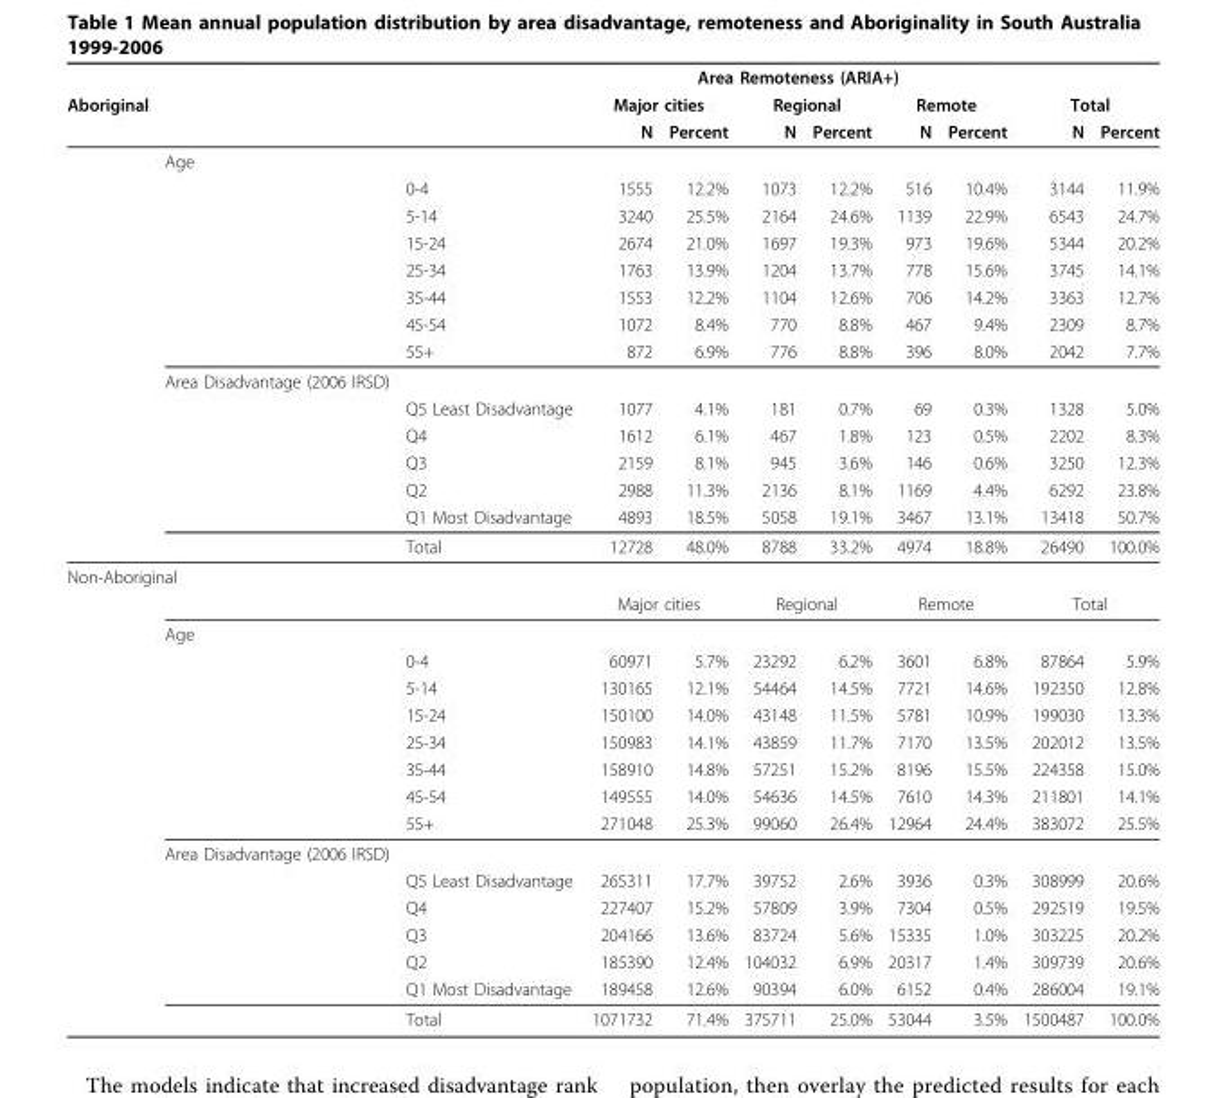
<table><thead><tr><td rowspan="3">Aboriginal</td><td rowspan="3"></td><td rowspan="3"></td><td colspan="6">Area Remoteness (ARIA+)</td><td></td><td></td></tr><tr><td colspan="2">Major cities</td><td colspan="2">Regional</td><td colspan="2">Remote</td><td colspan="2">Total</td></tr><tr><td>N</td><td>Percent</td><td>N</td><td>Percent</td><td>N</td><td>Percent</td><td>N</td><td>Percent</td></tr></thead><tbody><tr><td></td><td>Age</td><td></td><td></td><td></td><td></td><td></td><td></td><td></td><td></td><td></td></tr><tr><td></td><td></td><td>0-4</td><td>1555</td><td>12.2%</td><td>1073</td><td>12.2%</td><td>516</td><td>10.4%</td><td>3144</td><td>11.9%</td></tr><tr><td></td><td></td><td>5-14</td><td>3240</td><td>25.5%</td><td>2164</td><td>24.6%</td><td>1139</td><td>22.9%</td><td>6543</td><td>24.7%</td></tr><tr><td></td><td></td><td>15-24</td><td>2674</td><td>21.0%</td><td>1697</td><td>19.3%</td><td>973</td><td>19.6%</td><td>5344</td><td>20.2%</td></tr><tr><td></td><td></td><td>25-34</td><td>1763</td><td>13.9%</td><td>1204</td><td>13.7%</td><td>778</td><td>15.6%</td><td>3745</td><td>14.1%</td></tr><tr><td></td><td></td><td>35-44</td><td>1553</td><td>12.2%</td><td>1104</td><td>12.6%</td><td>706</td><td>14.2%</td><td>3363</td><td>12.7%</td></tr><tr><td></td><td></td><td>45-54</td><td>1072</td><td>8.4%</td><td>770</td><td>8.8%</td><td>467</td><td>9.4%</td><td>2309</td><td>8.7%</td></tr><tr><td></td><td></td><td>55+</td><td>872</td><td>6.9%</td><td>776</td><td>8.8%</td><td>396</td><td>8.0%</td><td>2042</td><td>7.7%</td></tr><tr><td></td><td>Area Disadvantage (2006 IRSD)</td><td></td><td></td><td></td><td></td><td></td><td></td><td></td><td></td><td></td></tr><tr><td></td><td></td><td>Q5 Least Disadvantage</td><td>1077</td><td>4.1%</td><td>181</td><td>0.7%</td><td>69</td><td>0.3%</td><td>1328</td><td>5.0%</td></tr><tr><td></td><td></td><td>Q4</td><td>1612</td><td>6.1%</td><td>467</td><td>1.8%</td><td>123</td><td>0.5%</td><td>2202</td><td>8.3%</td></tr><tr><td></td><td></td><td>Q3</td><td>2159</td><td>8.1%</td><td>945</td><td>3.6%</td><td>146</td><td>0.6%</td><td>3250</td><td>12.3%</td></tr><tr><td></td><td></td><td>Q2</td><td>2988</td><td>11.3%</td><td>2136</td><td>8.1%</td><td>1169</td><td>4.4%</td><td>6292</td><td>23.8%</td></tr><tr><td></td><td></td><td>Q1 Most Disadvantage</td><td>4893</td><td>18.5%</td><td>5058</td><td>19.1%</td><td>3467</td><td>13.1%</td><td>13418</td><td>50.7%</td></tr><tr><td></td><td></td><td>Total</td><td>12728</td><td>48.0%</td><td>8788</td><td>33.2%</td><td>4974</td><td>18.8%</td><td>26490</td><td>100.0%</td></tr><tr><td colspan="11">Non-Aboriginal</td></tr><tr><td></td><td></td><td></td><td colspan="2">Major cities</td><td colspan="2">Regional</td><td colspan="2">Remote</td><td colspan="2">Total</td></tr><tr><td></td><td>Age</td><td></td><td></td><td></td><td></td><td></td><td></td><td></td><td></td><td></td></tr><tr><td></td><td></td><td>0-4</td><td>60971</td><td>5.7%</td><td>23292</td><td>6.2%</td><td>3601</td><td>6.8%</td><td>87864</td><td>5.9%</td></tr><tr><td></td><td></td><td>5-14</td><td>130165</td><td>12.1%</td><td>54464</td><td>14.5%</td><td>7721</td><td>14.6%</td><td>192350</td><td>12.8%</td></tr><tr><td></td><td></td><td>15-24</td><td>150100</td><td>14.0%</td><td>43148</td><td>11.5%</td><td>5781</td><td>10.9%</td><td>199030</td><td>13.3%</td></tr><tr><td></td><td></td><td>25-34</td><td>150983</td><td>14.1%</td><td>43859</td><td>11.7%</td><td>7170</td><td>13.5%</td><td>202012</td><td>13.5%</td></tr><tr><td></td><td></td><td>35-44</td><td>158910</td><td>14.8%</td><td>57251</td><td>15.2%</td><td>8196</td><td>15.5%</td><td>224358</td><td>15.0%</td></tr><tr><td></td><td></td><td>45-54</td><td>149555</td><td>14.0%</td><td>54636</td><td>14.5%</td><td>7610</td><td>14.3%</td><td>211801</td><td>14.1%</td></tr><tr><td></td><td></td><td>55+</td><td>271048</td><td>25.3%</td><td>99060</td><td>26.4%</td><td>12964</td><td>24.4%</td><td>383072</td><td>25.5%</td></tr><tr><td></td><td>Area Disadvantage (2006 IRSD)</td><td></td><td></td><td></td><td></td><td></td><td></td><td></td><td></td><td></td></tr><tr><td></td><td></td><td>Q5 Least Disadvantage</td><td>265311</td><td>17.7%</td><td>39752</td><td>2.6%</td><td>3936</td><td>0.3%</td><td>308999</td><td>20.6%</td></tr><tr><td></td><td></td><td>Q4</td><td>227407</td><td>15.2%</td><td>57809</td><td>3.9%</td><td>7304</td><td>0.5%</td><td>292519</td><td>19.5%</td></tr><tr><td></td><td></td><td>Q3</td><td>204166</td><td>13.6%</td><td>83724</td><td>5.6%</td><td>15335</td><td>1.0%</td><td>303225</td><td>20.2%</td></tr><tr><td></td><td></td><td>Q2</td><td>185390</td><td>12.4%</td><td>104032</td><td>6.9%</td><td>20317</td><td>1.4%</td><td>309739</td><td>20.6%</td></tr><tr><td></td><td></td><td>Q1 Most Disadvantage</td><td>189458</td><td>12.6%</td><td>90394</td><td>6.0%</td><td>6152</td><td>0.4%</td><td>286004</td><td>19.1%</td></tr><tr><td></td><td></td><td>Total</td><td>1071732</td><td>71.4%</td><td>375711</td><td>25.0%</td><td>53044</td><td>3.5%</td><td>1500487</td><td>100.0%</td></tr></tbody></table>